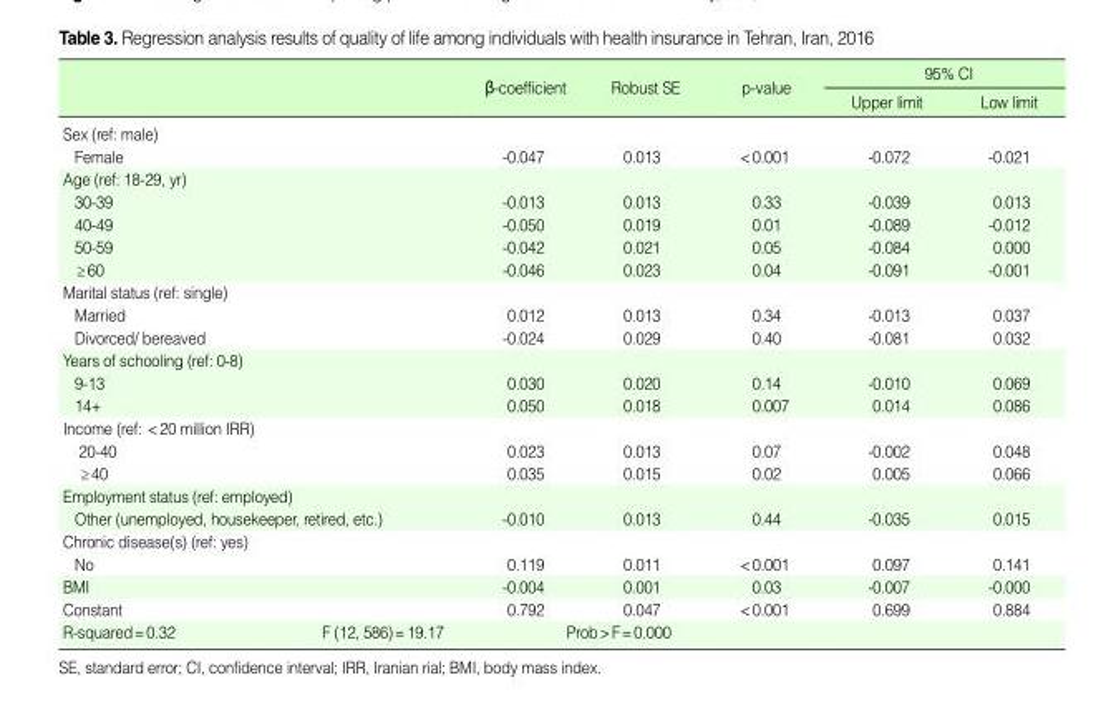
<table><thead><tr><td rowspan="2"></td><td rowspan="2">β-coefficient</td><td rowspan="2">Robust SE</td><td rowspan="2">p-value</td><td colspan="2">95% CI</td></tr><tr><td>Upper limit</td><td>Low limit</td></tr></thead><tbody><tr><td colspan="6">Sex (ref: male)</td></tr><tr><td>Female</td><td>-0.047</td><td>0.013</td><td>&lt;0.001</td><td>-0.072</td><td>-0.021</td></tr><tr><td colspan="6">Age (ref: 18-29, yr)</td></tr><tr><td>30-39</td><td>-0.013</td><td>0.013</td><td>0.33</td><td>-0.039</td><td>0.013</td></tr><tr><td>40-49</td><td>-0.050</td><td>0.019</td><td>0.01</td><td>-0.089</td><td>-0.012</td></tr><tr><td>50-59</td><td>-0.042</td><td>0.021</td><td>0.05</td><td>-0.084</td><td>0.000</td></tr><tr><td>≥60</td><td>-0.046</td><td>0.023</td><td>0.04</td><td>-0.091</td><td>-0.001</td></tr><tr><td colspan="6">Marital status (ref: single)</td></tr><tr><td>Married</td><td>0.012</td><td>0.013</td><td>0.34</td><td>-0.013</td><td>0.037</td></tr><tr><td>Divorced/ bereaved</td><td>-0.024</td><td>0.029</td><td>0.40</td><td>-0.081</td><td>0.032</td></tr><tr><td colspan="6">Years of schooling (ref: 0-8)</td></tr><tr><td>9-13</td><td>0.030</td><td>0.020</td><td>0.14</td><td>-0.010</td><td>0.069</td></tr><tr><td>14+</td><td>0.050</td><td>0.018</td><td>0.007</td><td>0.014</td><td>0.086</td></tr><tr><td colspan="6">Income (ref: &lt;20 million IRR)</td></tr><tr><td>20-40</td><td>0.023</td><td>0.013</td><td>0.07</td><td>-0.002</td><td>0.048</td></tr><tr><td>≥40</td><td>0.035</td><td>0.015</td><td>0.02</td><td>0.005</td><td>0.066</td></tr><tr><td colspan="6">Employment status (ref: employed)</td></tr><tr><td>Other (unemployed, housekeeper, retired, etc.)</td><td>-0.010</td><td>0.013</td><td>0.44</td><td>-0.035</td><td>0.015</td></tr><tr><td colspan="6">Chronic disease(s) (ref: yes)</td></tr><tr><td>No</td><td>0.119</td><td>0.011</td><td>&lt;0.001</td><td>0.097</td><td>0.141</td></tr><tr><td>BMI</td><td>-0.004</td><td>0.001</td><td>0.03</td><td>-0.007</td><td>-0.000</td></tr><tr><td>Constant</td><td>0.792</td><td>0.047</td><td>&lt;0.001</td><td>0.699</td><td>0.884</td></tr><tr><td colspan="6">R-squared=0.32 F (12, 586)=19.17 Prob&gt;F=0.000</td></tr></tbody></table>